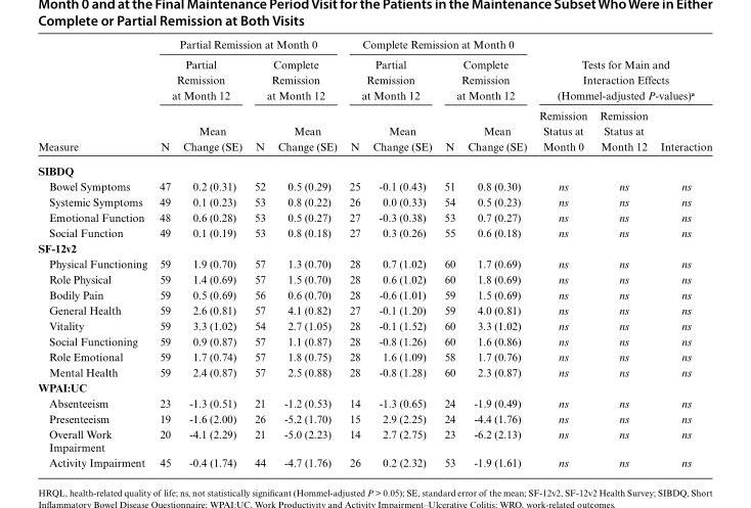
<table><thead><tr><td rowspan="3">Measure</td><td colspan="4">Partial Remission at Month 0</td><td colspan="4">Complete Remission at Month 0</td><td></td><td></td><td></td></tr><tr><td colspan="2">Partial Remission at Month 12</td><td colspan="2">Complete Remission at Month 12</td><td colspan="2">Partial Remission at Month 12</td><td colspan="2">Complete Remission at Month 12</td><td colspan="3">Tests for Main and Interaction Effects (Hommel-adjusted P-values)<sup>a</sup></td></tr><tr><td>N</td><td>Mean Change (SE)</td><td>N</td><td>Mean Change (SE)</td><td>N</td><td>Mean Change (SE)</td><td>N</td><td>Mean Change (SE)</td><td>Remission Status at Month 0</td><td>Remission Status at Month 12</td><td>Interaction</td></tr></thead><tbody><tr><td colspan="12">SIBDQ</td></tr><tr><td>Bowel Symptoms</td><td>47</td><td>0.2 (0.31)</td><td>52</td><td>0.5 (0.29)</td><td>25</td><td>-0.1 (0.43)</td><td>51</td><td>0.8 (0.30)</td><td>ns</td><td>ns</td><td>ns</td></tr><tr><td>Systemic Symptoms</td><td>49</td><td>0.1 (0.23)</td><td>53</td><td>0.8 (0.22)</td><td>26</td><td>0.0 (0.33)</td><td>54</td><td>0.5 (0.23)</td><td>ns</td><td>ns</td><td>ns</td></tr><tr><td>Emotional Function</td><td>48</td><td>0.6 (0.28)</td><td>53</td><td>0.5 (0.27)</td><td>27</td><td>-0.3 (0.38)</td><td>53</td><td>0.7 (0.27)</td><td>ns</td><td>ns</td><td>ns</td></tr><tr><td>Social Function</td><td>49</td><td>0.1 (0.19)</td><td>53</td><td>0.8 (0.18)</td><td>27</td><td>0.3 (0.26)</td><td>55</td><td>0.6 (0.18)</td><td>ns</td><td>ns</td><td>ns</td></tr><tr><td colspan="12">SF-12v2</td></tr><tr><td>Physical Functioning</td><td>59</td><td>1.9 (0.70)</td><td>57</td><td>1.3 (0.70)</td><td>28</td><td>0.7 (1.02)</td><td>60</td><td>1.7 (0.69)</td><td>ns</td><td>ns</td><td>ns</td></tr><tr><td>Role Physical</td><td>59</td><td>1.4 (0.69)</td><td>57</td><td>1.5 (0.70)</td><td>28</td><td>0.6 (1.02)</td><td>60</td><td>1.8 (0.69)</td><td>ns</td><td>ns</td><td>ns</td></tr><tr><td>Bodily Pain</td><td>59</td><td>0.5 (0.69)</td><td>56</td><td>0.6 (0.70)</td><td>28</td><td>-0.6 (1.01)</td><td>59</td><td>1.5 (0.69)</td><td>ns</td><td>ns</td><td>ns</td></tr><tr><td>General Health</td><td>59</td><td>2.6 (0.81)</td><td>57</td><td>4.1 (0.82)</td><td>27</td><td>-0.1 (1.20)</td><td>59</td><td>4.0 (0.81)</td><td>ns</td><td>ns</td><td>ns</td></tr><tr><td>Vitality</td><td>59</td><td>3.3 (1.02)</td><td>54</td><td>2.7 (1.05)</td><td>28</td><td>-0.1 (1.52)</td><td>60</td><td>3.3 (1.02)</td><td>ns</td><td>ns</td><td>ns</td></tr><tr><td>Social Functioning</td><td>59</td><td>0.9 (0.87)</td><td>57</td><td>1.1 (0.87)</td><td>28</td><td>-0.8 (1.26)</td><td>60</td><td>1.6 (0.86)</td><td>ns</td><td>ns</td><td>ns</td></tr><tr><td>Role Emotional</td><td>59</td><td>1.7 (0.74)</td><td>57</td><td>1.8 (0.75)</td><td>28</td><td>1.6 (1.09)</td><td>58</td><td>1.7 (0.76)</td><td>ns</td><td>ns</td><td>ns</td></tr><tr><td>Mental Health</td><td>59</td><td>2.4 (0.87)</td><td>57</td><td>2.5 (0.88)</td><td>28</td><td>-0.8 (1.28)</td><td>60</td><td>2.3 (0.87)</td><td>ns</td><td>ns</td><td>ns</td></tr><tr><td colspan="12">WPAI:UC</td></tr><tr><td>Absenteeism</td><td>23</td><td>-1.3 (0.51)</td><td>21</td><td>-1.2 (0.53)</td><td>14</td><td>-1.3 (0.65)</td><td>24</td><td>-1.9 (0.49)</td><td>ns</td><td>ns</td><td>ns</td></tr><tr><td>Presenteeism</td><td>19</td><td>-1.6 (2.00)</td><td>26</td><td>-5.2 (1.70)</td><td>15</td><td>2.9 (2.25)</td><td>24</td><td>-4.4 (1.76)</td><td>ns</td><td>ns</td><td>ns</td></tr><tr><td>Overall Work Impairment</td><td>20</td><td>-4.1 (2.29)</td><td>21</td><td>-5.0 (2.23)</td><td>14</td><td>2.7 (2.75)</td><td>23</td><td>-6.2 (2.13)</td><td>ns</td><td>ns</td><td>ns</td></tr><tr><td>Activity Impairment</td><td>45</td><td>-0.4 (1.74)</td><td>44</td><td>-4.7 (1.76)</td><td>26</td><td>0.2 (2.32)</td><td>53</td><td>-1.9 (1.61)</td><td>ns</td><td>ns</td><td>ns</td></tr></tbody></table>